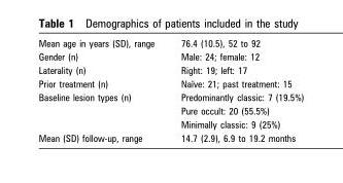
<table><tbody><tr><td>Mean age in years (SD), range</td><td>76.4 (10.5), 52 to 92</td></tr><tr><td>Gender (n)</td><td>Male: 24; female: 12</td></tr><tr><td>Laterality (n)</td><td>Right: 19; left: 17</td></tr><tr><td>Prior treatment (n)</td><td>Naı¨ve: 21; past treatment: 15</td></tr><tr><td rowspan="3">Baseline lesion types (n)</td><td>Predominantly classic: 7 (19.5%)</td></tr><tr><td>Pure occult: 20 (55.5%)</td></tr><tr><td>Minimally classic: 9 (25%)</td></tr><tr><td>Mean (SD) follow-up, range</td><td>14.7 (2.9), 6.9 to 19.2 months</td></tr></tbody></table>